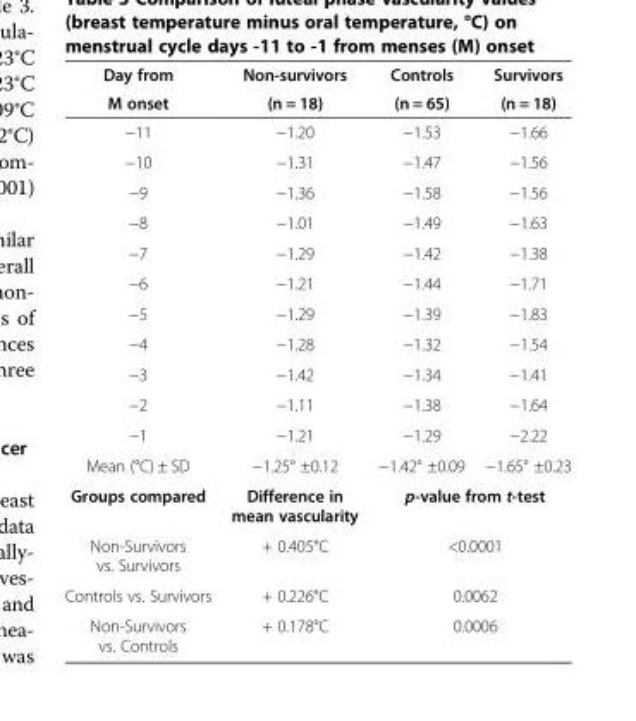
<table><thead><tr><td rowspan="2">Day from M onset</td><td rowspan="2">Non-survivors (n = 18)</td><td rowspan="2">Controls (n = 65)</td><td rowspan="2">Survivors (n = 18)</td></tr><tr></tr></thead><tbody><tr><td>−11</td><td>−1.20</td><td>−1.53</td><td>−1.66</td></tr><tr><td>−10</td><td>−1.31</td><td>−1.47</td><td>−1.56</td></tr><tr><td>−9</td><td>−1.36</td><td>−1.58</td><td>−1.56</td></tr><tr><td>−8</td><td>−1.01</td><td>−1.49</td><td>−1.63</td></tr><tr><td>−7</td><td>−1.29</td><td>−1.42</td><td>−1.38</td></tr><tr><td>−6</td><td>−1.21</td><td>−1.44</td><td>−1.71</td></tr><tr><td>−5</td><td>−1.29</td><td>−1.39</td><td>−1.83</td></tr><tr><td>−4</td><td>−1.28</td><td>−1.32</td><td>−1.54</td></tr><tr><td>−3</td><td>−1.42</td><td>−1.34</td><td>−1.41</td></tr><tr><td>−2</td><td>−1.11</td><td>−1.38</td><td>−1.64</td></tr><tr><td>−1</td><td>−1.21</td><td>−1.29</td><td>−2.22</td></tr><tr><td>Mean (°C) ± SD</td><td>−1.25° ±0.12</td><td>−1.42° ±0.09</td><td>−1.65° ±0.23</td></tr><tr><td>Groups compared</td><td>Difference in mean vascularity</td><td colspan="2">p-value from t-test</td></tr><tr><td>Non-Survivors vs. Survivors</td><td>+ 0.405°C</td><td colspan="2">&lt;0.0001</td></tr><tr><td>Controls vs. Survivors</td><td>+ 0.226°C</td><td colspan="2">0.0062</td></tr><tr><td>Non-Survivors vs. Controls</td><td>+ 0.178°C</td><td colspan="2">0.0006</td></tr></tbody></table>